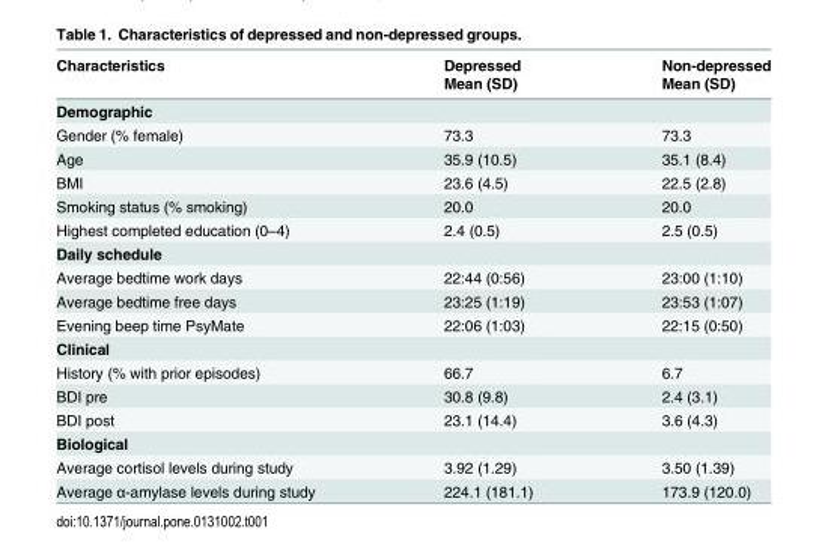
<table><thead><tr><td rowspan="2">Characteristics</td><td rowspan="2">Depressed Mean (SD)</td><td rowspan="2">Non-depressed Mean (SD)</td></tr><tr></tr></thead><tbody><tr><td colspan="3">Demographic</td></tr><tr><td>Gender (% female)</td><td>73.3</td><td>73.3</td></tr><tr><td>Age</td><td>35.9 (10.5)</td><td>35.1 (8.4)</td></tr><tr><td>BMI</td><td>23.6 (4.5)</td><td>22.5 (2.8)</td></tr><tr><td>Smoking status (% smoking)</td><td>20.0</td><td>20.0</td></tr><tr><td>Highest completed education (0–4)</td><td>2.4 (0.5)</td><td>2.5 (0.5)</td></tr><tr><td colspan="3">Daily schedule</td></tr><tr><td>Average bedtime work days</td><td>22:44 (0:56)</td><td>23:00 (1:10)</td></tr><tr><td>Average bedtime free days</td><td>23:25 (1:19)</td><td>23:53 (1:07)</td></tr><tr><td>Evening beep time PsyMate</td><td>22:06 (1:03)</td><td>22:15 (0:50)</td></tr><tr><td colspan="3">Clinical</td></tr><tr><td>History (% with prior episodes)</td><td>66.7</td><td>6.7</td></tr><tr><td>BDI pre</td><td>30.8 (9.8)</td><td>2.4 (3.1)</td></tr><tr><td>BDI post</td><td>23.1 (14.4)</td><td>3.6 (4.3)</td></tr><tr><td colspan="3">Biological</td></tr><tr><td>Average cortisol levels during study</td><td>3.92 (1.29)</td><td>3.50 (1.39)</td></tr><tr><td>Average α-amylase levels during study</td><td>224.1 (181.1)</td><td>173.9 (120.0)</td></tr></tbody></table>